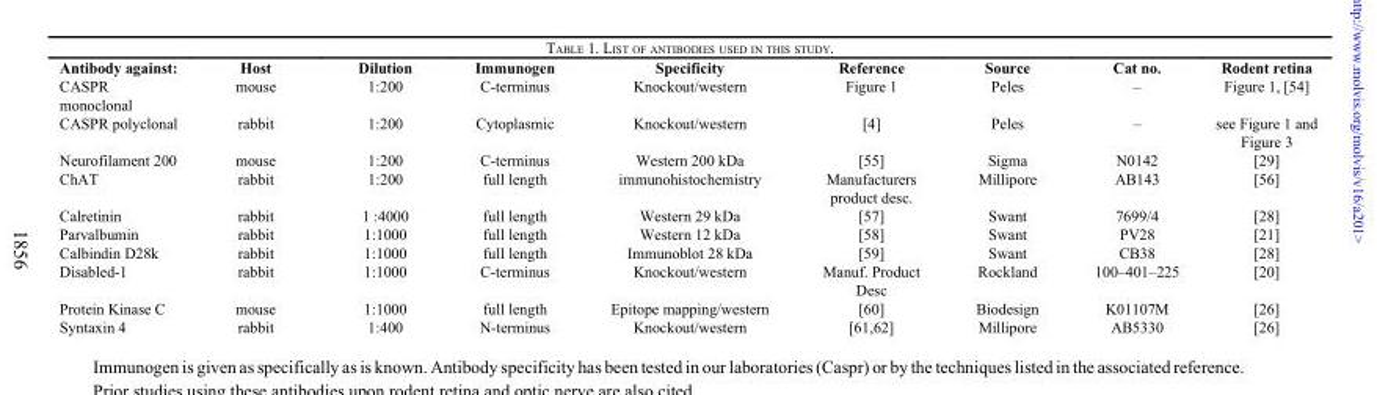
<table><thead><tr><td>Antibody against:</td><td>Host</td><td>Dilution</td><td>Immunogen</td><td>Specificity</td><td>Reference</td><td>Source</td><td>Cat no.</td><td>Rodent retina</td></tr></thead><tbody><tr><td>CASPR monoclonal</td><td>mouse</td><td>1:200</td><td>C-terminus</td><td>Knockout/western</td><td>Figure 1</td><td>Peles</td><td>–</td><td>Figure 1, [54]</td></tr><tr><td>CASPR polyclonal</td><td>rabbit</td><td>1:200</td><td>Cytoplasmic</td><td>Knockout/western</td><td>[4]</td><td>Peles</td><td>–</td><td>see Figure 1 and Figure 3</td></tr><tr><td>Neurofilament 200</td><td>mouse</td><td>1:200</td><td>C-terminus</td><td>Western 200 kDa</td><td>[55]</td><td>Sigma</td><td>N0142</td><td>[29]</td></tr><tr><td>ChAT</td><td>rabbit</td><td>1:200</td><td>full length</td><td>immunohistochemistry</td><td>Manufacturers product desc.</td><td>Millipore</td><td>AB143</td><td>[56]</td></tr><tr><td>Calretinin</td><td>rabbit</td><td>1 :4000</td><td>full length</td><td>Western 29 kDa</td><td>[57]</td><td>Swant</td><td>7699/4</td><td>[28]</td></tr><tr><td>Parvalbumin</td><td>rabbit</td><td>1:1000</td><td>full length</td><td>Western 12 kDa</td><td>[58]</td><td>Swant</td><td>PV28</td><td>[21]</td></tr><tr><td>Calbindin D28k</td><td>rabbit</td><td>1:1000</td><td>full length</td><td>Immunoblot 28 kDa</td><td>[59]</td><td>Swant</td><td>CB38</td><td>[28]</td></tr><tr><td>Disabled-1</td><td>rabbit</td><td>1:1000</td><td>C-terminus</td><td>Knockout/western</td><td>Manuf. Product Desc</td><td>Rockland</td><td>100–401–225</td><td>[20]</td></tr><tr><td>Protein Kinase C</td><td>mouse</td><td>1:1000</td><td>full length</td><td>Epitope mapping/western</td><td>[60]</td><td>Biodesign</td><td>K01107M</td><td>[26]</td></tr><tr><td>Syntaxin 4</td><td>rabbit</td><td>1:400</td><td>N-terminus</td><td>Knockout/western</td><td>[61,62]</td><td>Millipore</td><td>AB5330</td><td>[26]</td></tr></tbody></table>